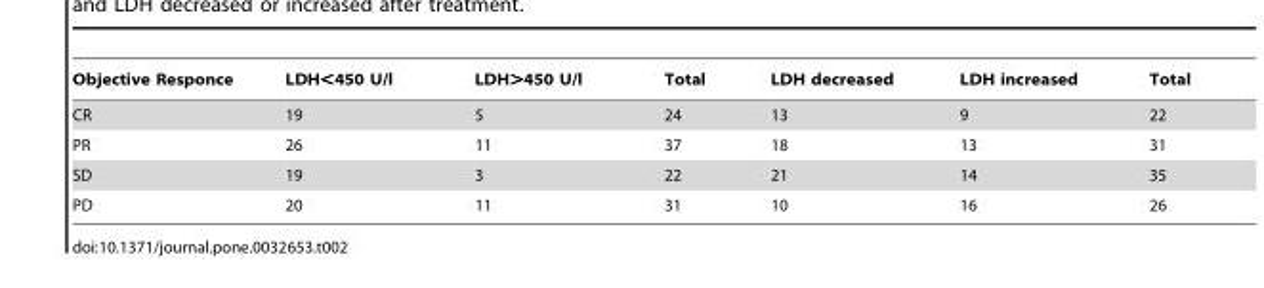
<table><thead><tr><td>Objective Responce</td><td>LDH&lt;450 U/l</td><td>LDH&gt;450 U/l</td><td>Total</td><td>LDH decreased</td><td>LDH increased</td><td>Total</td></tr></thead><tbody><tr><td>CR</td><td>19</td><td>5</td><td>24</td><td>13</td><td>9</td><td>22</td></tr><tr><td>PR</td><td>26</td><td>11</td><td>37</td><td>18</td><td>13</td><td>31</td></tr><tr><td>SD</td><td>19</td><td>3</td><td>22</td><td>21</td><td>14</td><td>35</td></tr><tr><td>PD</td><td>20</td><td>11</td><td>31</td><td>10</td><td>16</td><td>26</td></tr></tbody></table>